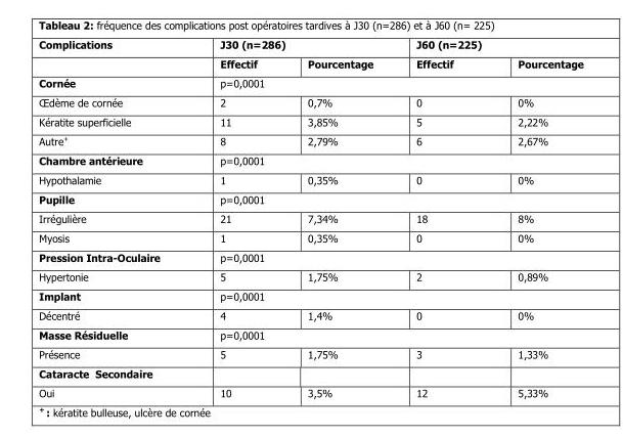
<table><thead><tr><td rowspan="2">Complications</td><td colspan="2">J30 (n=286)</td><td colspan="2">J60 (n=225)</td></tr><tr><td>Effectif</td><td>Pourcentage</td><td>Effectif</td><td>Pourcentage</td></tr></thead><tbody><tr><td>Cornée</td><td colspan="4">p=0,0001</td></tr><tr><td>Œdème de cornée</td><td>2</td><td>0,7%</td><td>0</td><td>0%</td></tr><tr><td>Kératite superficielle</td><td>11</td><td>3,85%</td><td>5</td><td>2,22%</td></tr><tr><td>Autre+</td><td>8</td><td>2,79%</td><td>6</td><td>2,67%</td></tr><tr><td>Chambre antérieure</td><td colspan="4">p=0,0001</td></tr><tr><td>Hypothalamie</td><td>1</td><td>0,35%</td><td>0</td><td>0%</td></tr><tr><td>Pupille</td><td colspan="4">p=0,0001</td></tr><tr><td>Irrégulière</td><td>21</td><td>7,34%</td><td>18</td><td>8%</td></tr><tr><td>Myosis</td><td>1</td><td>0,35%</td><td>0</td><td>0%</td></tr><tr><td>Pression Intra-Oculaire</td><td colspan="4">p=0,0001</td></tr><tr><td>Hypertonie</td><td>5</td><td>1,75%</td><td>2</td><td>0,89%</td></tr><tr><td>Implant</td><td colspan="4">p=0,0001</td></tr><tr><td>Décentré</td><td>4</td><td>1,4%</td><td>0</td><td>0%</td></tr><tr><td>Masse Résiduelle</td><td colspan="4">p=0,0001</td></tr><tr><td>Présence</td><td>5</td><td>1,75%</td><td>3</td><td>1,33%</td></tr><tr><td colspan="5">Cataracte Secondaire</td></tr><tr><td>Oui</td><td>10</td><td>3,5%</td><td>12</td><td>5,33%</td></tr></tbody></table>